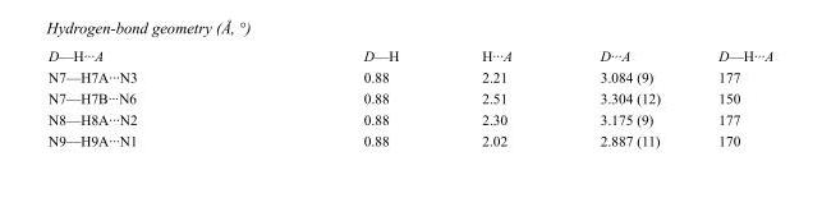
<table><tbody><tr><td>D—H···A</td><td>D—H</td><td>H···A</td><td>D···A</td><td>D—H···A</td></tr><tr><td>N7—H7A···N3</td><td>0.88</td><td>2.21</td><td>3.084 (9)</td><td>177</td></tr><tr><td>N7—H7B···N6</td><td>0.88</td><td>2.51</td><td>3.304 (12)</td><td>150</td></tr><tr><td>N8—H8A···N2</td><td>0.88</td><td>2.30</td><td>3.175 (9)</td><td>177</td></tr><tr><td>N9—H9A···N1</td><td>0.88</td><td>2.02</td><td>2.887 (11)</td><td>170</td></tr></tbody></table>